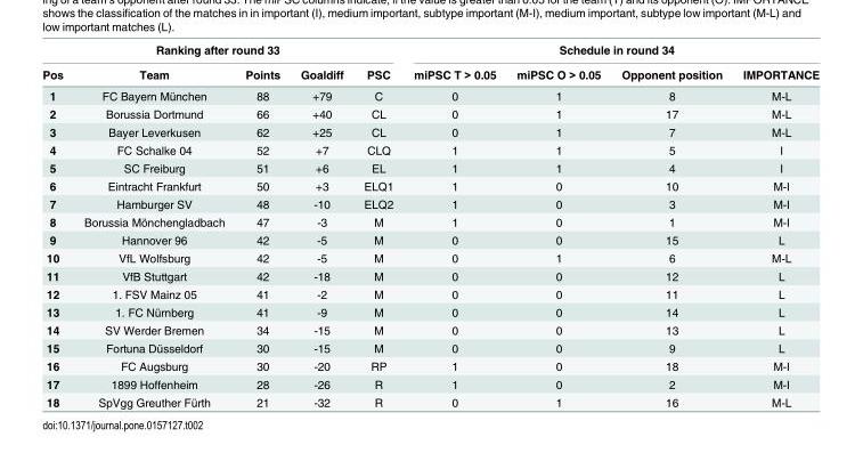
<table><thead><tr><td colspan="5">Ranking after round 33</td><td colspan="4">Schedule in round 34</td></tr><tr><td>Pos</td><td>Team</td><td>Points</td><td>Goaldiff</td><td>PSC</td><td>miPSC T &gt; 0.05</td><td>miPSC O &gt; 0.05</td><td>Opponent position</td><td>IMPORTANCE</td></tr></thead><tbody><tr><td>1</td><td>FC Bayern München</td><td>88</td><td>+79</td><td>C</td><td>0</td><td>1</td><td>8</td><td>M-L</td></tr><tr><td>2</td><td>Borussia Dortmund</td><td>66</td><td>+40</td><td>CL</td><td>0</td><td>1</td><td>17</td><td>M-L</td></tr><tr><td>3</td><td>Bayer Leverkusen</td><td>62</td><td>+25</td><td>CL</td><td>0</td><td>1</td><td>7</td><td>M-L</td></tr><tr><td>4</td><td>FC Schalke 04</td><td>52</td><td>+7</td><td>CLQ</td><td>1</td><td>1</td><td>5</td><td>I</td></tr><tr><td>5</td><td>SC Freiburg</td><td>51</td><td>+6</td><td>EL</td><td>1</td><td>1</td><td>4</td><td>I</td></tr><tr><td>6</td><td>Eintracht Frankfurt</td><td>50</td><td>+3</td><td>ELQ1</td><td>1</td><td>0</td><td>10</td><td>M-I</td></tr><tr><td>7</td><td>Hamburger SV</td><td>48</td><td>-10</td><td>ELQ2</td><td>1</td><td>0</td><td>3</td><td>M-I</td></tr><tr><td>8</td><td>Borussia Mönchengladbach</td><td>47</td><td>-3</td><td>M</td><td>1</td><td>0</td><td>1</td><td>M-I</td></tr><tr><td>9</td><td>Hannover 96</td><td>42</td><td>-5</td><td>M</td><td>0</td><td>0</td><td>15</td><td>L</td></tr><tr><td>10</td><td>VfL Wolfsburg</td><td>42</td><td>-5</td><td>M</td><td>0</td><td>1</td><td>6</td><td>M-L</td></tr><tr><td>11</td><td>VfB Stuttgart</td><td>42</td><td>-18</td><td>M</td><td>0</td><td>0</td><td>12</td><td>L</td></tr><tr><td>12</td><td>1. FSV Mainz 05</td><td>41</td><td>-2</td><td>M</td><td>0</td><td>0</td><td>11</td><td>L</td></tr><tr><td>13</td><td>1. FC Nürnberg</td><td>41</td><td>-9</td><td>M</td><td>0</td><td>0</td><td>14</td><td>L</td></tr><tr><td>14</td><td>SV Werder Bremen</td><td>34</td><td>-15</td><td>M</td><td>0</td><td>0</td><td>13</td><td>L</td></tr><tr><td>15</td><td>Fortuna Düsseldorf</td><td>30</td><td>-15</td><td>M</td><td>0</td><td>0</td><td>9</td><td>L</td></tr><tr><td>16</td><td>FC Augsburg</td><td>30</td><td>-20</td><td>RP</td><td>1</td><td>0</td><td>18</td><td>M-I</td></tr><tr><td>17</td><td>1899 Hoffenheim</td><td>28</td><td>-26</td><td>R</td><td>1</td><td>0</td><td>2</td><td>M-I</td></tr><tr><td>18</td><td>SpVgg Greuther Fürth</td><td>21</td><td>-32</td><td>R</td><td>0</td><td>1</td><td>16</td><td>M-L</td></tr></tbody></table>